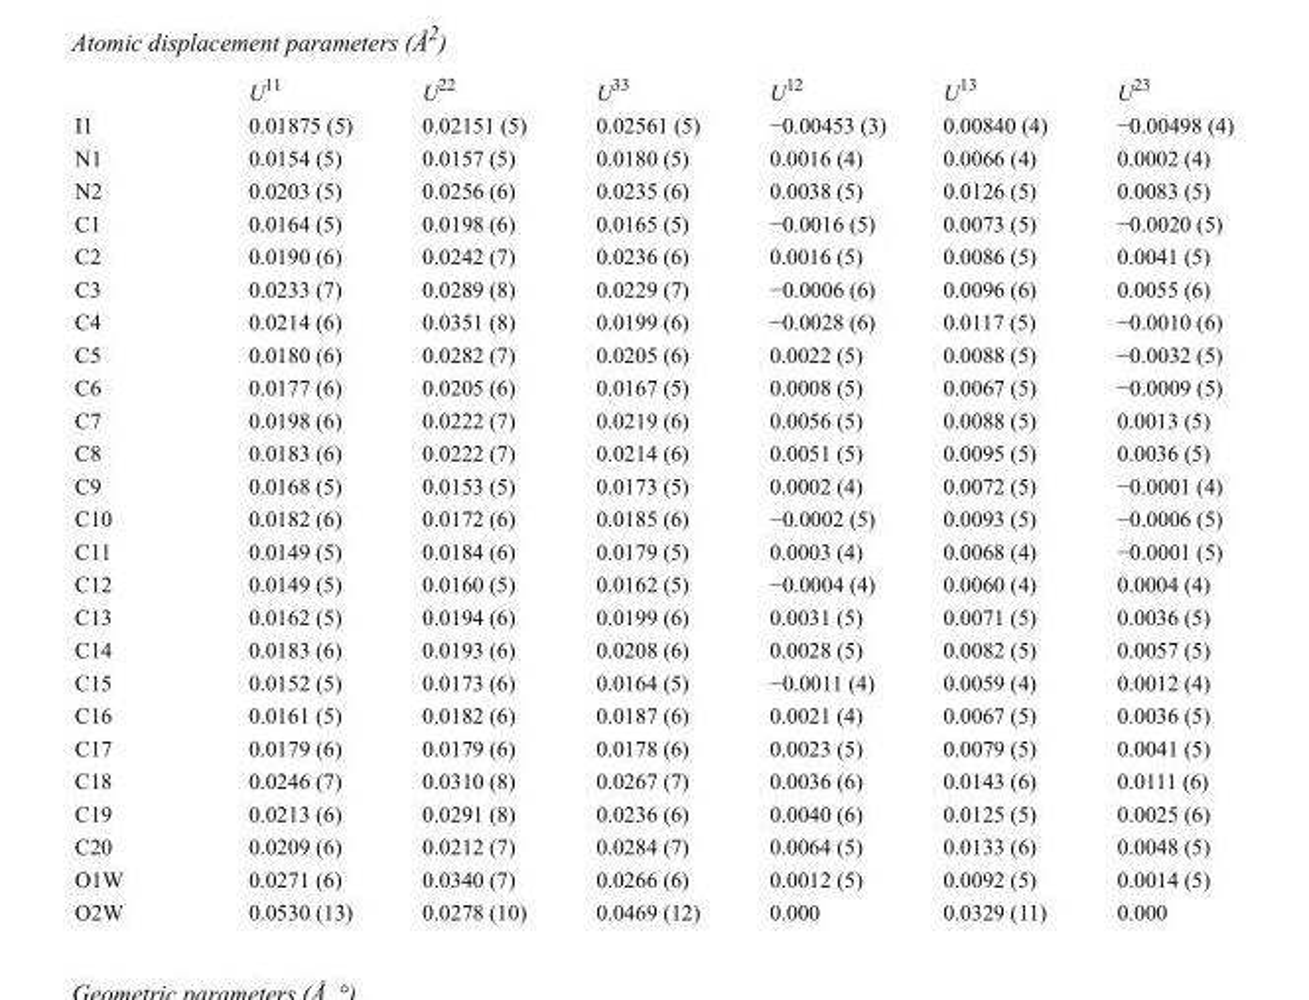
<table><thead><tr><td></td><td>U<sup>11</sup></td><td>U<sup>22</sup></td><td>U<sup>33</sup></td><td>U<sup>12</sup></td><td>U<sup>13</sup></td><td>U<sup>23</sup></td></tr></thead><tbody><tr><td>I1</td><td>0.01875 (5)</td><td>0.02151 (5)</td><td>0.02561 (5)</td><td>−0.00453 (3)</td><td>0.00840 (4)</td><td>−0.00498 (4)</td></tr><tr><td>N1</td><td>0.0154 (5)</td><td>0.0157 (5)</td><td>0.0180 (5)</td><td>0.0016 (4)</td><td>0.0066 (4)</td><td>0.0002 (4)</td></tr><tr><td>N2</td><td>0.0203 (5)</td><td>0.0256 (6)</td><td>0.0235 (6)</td><td>0.0038 (5)</td><td>0.0126 (5)</td><td>0.0083 (5)</td></tr><tr><td>C1</td><td>0.0164 (5)</td><td>0.0198 (6)</td><td>0.0165 (5)</td><td>−0.0016 (5)</td><td>0.0073 (5)</td><td>−0.0020 (5)</td></tr><tr><td>C2</td><td>0.0190 (6)</td><td>0.0242 (7)</td><td>0.0236 (6)</td><td>0.0016 (5)</td><td>0.0086 (5)</td><td>0.0041 (5)</td></tr><tr><td>C3</td><td>0.0233 (7)</td><td>0.0289 (8)</td><td>0.0229 (7)</td><td>−0.0006 (6)</td><td>0.0096 (6)</td><td>0.0055 (6)</td></tr><tr><td>C4</td><td>0.0214 (6)</td><td>0.0351 (8)</td><td>0.0199 (6)</td><td>−0.0028 (6)</td><td>0.0117 (5)</td><td>−0.0010 (6)</td></tr><tr><td>C5</td><td>0.0180 (6)</td><td>0.0282 (7)</td><td>0.0205 (6)</td><td>0.0022 (5)</td><td>0.0088 (5)</td><td>−0.0032 (5)</td></tr><tr><td>C6</td><td>0.0177 (6)</td><td>0.0205 (6)</td><td>0.0167 (5)</td><td>0.0008 (5)</td><td>0.0067 (5)</td><td>−0.0009 (5)</td></tr><tr><td>C7</td><td>0.0198 (6)</td><td>0.0222 (7)</td><td>0.0219 (6)</td><td>0.0056 (5)</td><td>0.0088 (5)</td><td>0.0013 (5)</td></tr><tr><td>C8</td><td>0.0183 (6)</td><td>0.0222 (7)</td><td>0.0214 (6)</td><td>0.0051 (5)</td><td>0.0095 (5)</td><td>0.0036 (5)</td></tr><tr><td>C9</td><td>0.0168 (5)</td><td>0.0153 (5)</td><td>0.0173 (5)</td><td>0.0002 (4)</td><td>0.0072 (5)</td><td>−0.0001 (4)</td></tr><tr><td>C10</td><td>0.0182 (6)</td><td>0.0172 (6)</td><td>0.0185 (6)</td><td>−0.0002 (5)</td><td>0.0093 (5)</td><td>−0.0006 (5)</td></tr><tr><td>C11</td><td>0.0149 (5)</td><td>0.0184 (6)</td><td>0.0179 (5)</td><td>0.0003 (4)</td><td>0.0068 (4)</td><td>−0.0001 (5)</td></tr><tr><td>C12</td><td>0.0149 (5)</td><td>0.0160 (5)</td><td>0.0162 (5)</td><td>−0.0004 (4)</td><td>0.0060 (4)</td><td>0.0004 (4)</td></tr><tr><td>C13</td><td>0.0162 (5)</td><td>0.0194 (6)</td><td>0.0199 (6)</td><td>0.0031 (5)</td><td>0.0071 (5)</td><td>0.0036 (5)</td></tr><tr><td>C14</td><td>0.0183 (6)</td><td>0.0193 (6)</td><td>0.0208 (6)</td><td>0.0028 (5)</td><td>0.0082 (5)</td><td>0.0057 (5)</td></tr><tr><td>C15</td><td>0.0152 (5)</td><td>0.0173 (6)</td><td>0.0164 (5)</td><td>−0.0011 (4)</td><td>0.0059 (4)</td><td>0.0012 (4)</td></tr><tr><td>C16</td><td>0.0161 (5)</td><td>0.0182 (6)</td><td>0.0187 (6)</td><td>0.0021 (4)</td><td>0.0067 (5)</td><td>0.0036 (5)</td></tr><tr><td>C17</td><td>0.0179 (6)</td><td>0.0179 (6)</td><td>0.0178 (6)</td><td>0.0023 (5)</td><td>0.0079 (5)</td><td>0.0041 (5)</td></tr><tr><td>C18</td><td>0.0246 (7)</td><td>0.0310 (8)</td><td>0.0267 (7)</td><td>0.0036 (6)</td><td>0.0143 (6)</td><td>0.0111 (6)</td></tr><tr><td>C19</td><td>0.0213 (6)</td><td>0.0291 (8)</td><td>0.0236 (6)</td><td>0.0040 (6)</td><td>0.0125 (5)</td><td>0.0025 (6)</td></tr><tr><td>C20</td><td>0.0209 (6)</td><td>0.0212 (7)</td><td>0.0284 (7)</td><td>0.0064 (5)</td><td>0.0133 (6)</td><td>0.0048 (5)</td></tr><tr><td>O1W</td><td>0.0271 (6)</td><td>0.0340 (7)</td><td>0.0266 (6)</td><td>0.0012 (5)</td><td>0.0092 (5)</td><td>0.0014 (5)</td></tr><tr><td>O2W</td><td>0.0530 (13)</td><td>0.0278 (10)</td><td>0.0469 (12)</td><td>0.000</td><td>0.0329 (11)</td><td>0.000</td></tr></tbody></table>